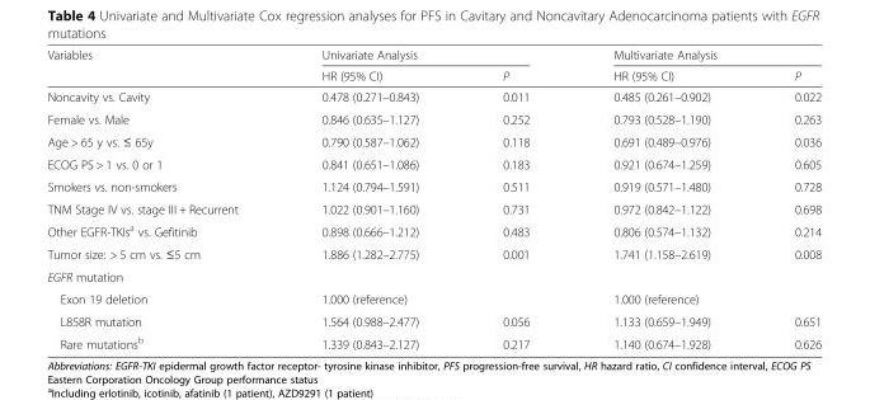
<table><thead><tr><td rowspan="2">Variables</td><td colspan="2">Univariate Analysis</td><td colspan="2">Multivariate Analysis</td></tr><tr><td>HR (95% CI)</td><td>P</td><td>HR (95% CI)</td><td>P</td></tr></thead><tbody><tr><td>Noncavity vs. Cavity</td><td>0.478 (0.271–0.843)</td><td>0.011</td><td>0.485 (0.261–0.902)</td><td>0.022</td></tr><tr><td>Female vs. Male</td><td>0.846 (0.635–1.127)</td><td>0.252</td><td>0.793 (0.528–1.190)</td><td>0.263</td></tr><tr><td>Age &gt; 65 y vs. ≤ 65y</td><td>0.790 (0.587–1.062)</td><td>0.118</td><td>0.691 (0.489–0.976)</td><td>0.036</td></tr><tr><td>ECOG PS &gt; 1 vs. 0 or 1</td><td>0.841 (0.651–1.086)</td><td>0.183</td><td>0.921 (0.674–1.259)</td><td>0.605</td></tr><tr><td>Smokers vs. non-smokers</td><td>1.124 (0.794–1.591)</td><td>0.511</td><td>0.919 (0.571–1.480)</td><td>0.728</td></tr><tr><td>TNM Stage IV vs. stage III + Recurrent</td><td>1.022 (0.901–1.160)</td><td>0.731</td><td>0.972 (0.842–1.122)</td><td>0.698</td></tr><tr><td>Other EGFR-TKIs<sup>a</sup> vs. Gefitinib</td><td>0.898 (0.666–1.212)</td><td>0.483</td><td>0.806 (0.574–1.132)</td><td>0.214</td></tr><tr><td>Tumor size: &gt; 5 cm vs. ≤5 cm</td><td>1.886 (1.282–2.775)</td><td>0.001</td><td>1.741 (1.158–2.619)</td><td>0.008</td></tr><tr><td colspan="5">EGFR mutation</td></tr><tr><td>Exon 19 deletion</td><td>1.000 (reference)</td><td></td><td>1.000 (reference)</td><td></td></tr><tr><td>L858R mutation</td><td>1.564 (0.988–2.477)</td><td>0.056</td><td>1.133 (0.659–1.949)</td><td>0.651</td></tr><tr><td>Rare mutations<sup>b</sup></td><td>1.339 (0.843–2.127)</td><td>0.217</td><td>1.140 (0.674–1.928)</td><td>0.626</td></tr></tbody></table>